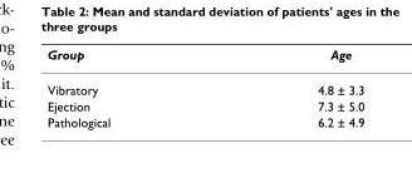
<table><thead><tr><td>Group</td><td>Age</td></tr></thead><tbody><tr><td>Vibratory</td><td>4.8 ± 3.3</td></tr><tr><td>Ejection</td><td>7.3 ± 5.0</td></tr><tr><td>Pathological</td><td>6.2 ± 4.9</td></tr></tbody></table>